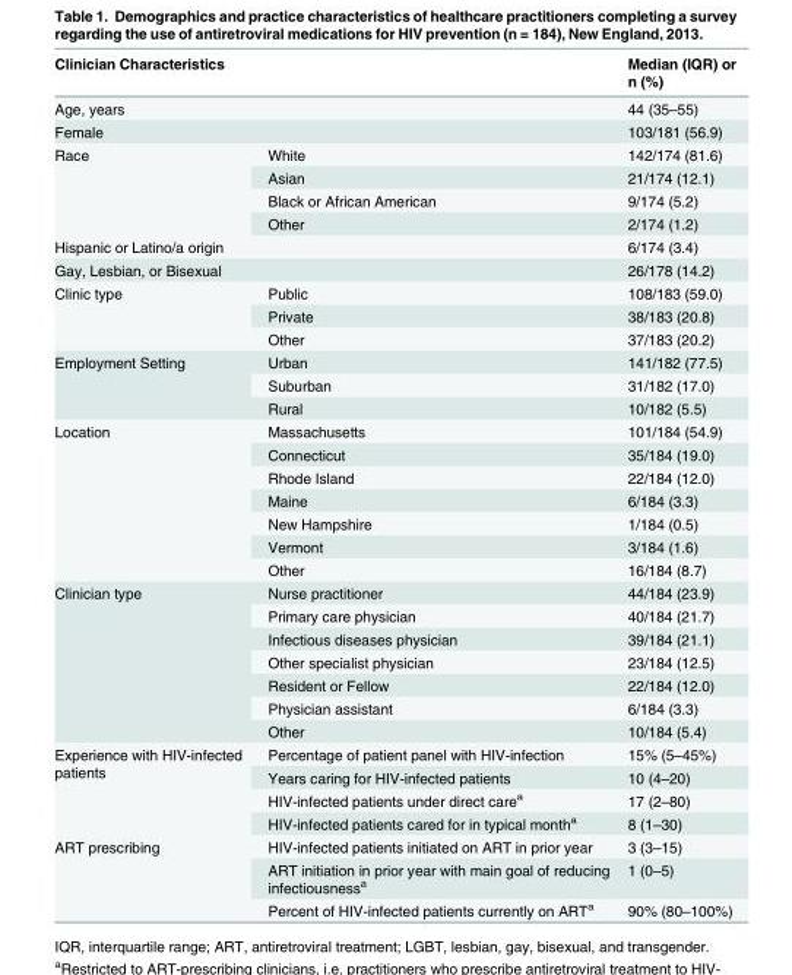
<table><thead><tr><td colspan="2">Clinician Characteristics</td><td rowspan="2">Median (IQR) or n (%) 44 (35–55)</td></tr><tr><td>Age, years</td><td></td></tr></thead><tbody><tr><td>Female</td><td></td><td>103/181 (56.9)</td></tr><tr><td rowspan="4">Race</td><td>White</td><td>142/174 (81.6)</td></tr><tr><td>Asian</td><td>21/174 (12.1)</td></tr><tr><td>Black or African American</td><td>9/174 (5.2)</td></tr><tr><td>Other</td><td>2/174 (1.2)</td></tr><tr><td>Hispanic or Latino/a origin</td><td></td><td>6/174 (3.4)</td></tr><tr><td>Gay, Lesbian, or Bisexual</td><td></td><td>26/178 (14.2)</td></tr><tr><td rowspan="3">Clinic type</td><td>Public</td><td>108/183 (59.0)</td></tr><tr><td>Private</td><td>38/183 (20.8)</td></tr><tr><td>Other</td><td>37/183 (20.2)</td></tr><tr><td rowspan="3">Employment Setting</td><td>Urban</td><td>141/182 (77.5)</td></tr><tr><td>Suburban</td><td>31/182 (17.0)</td></tr><tr><td>Rural</td><td>10/182 (5.5)</td></tr><tr><td rowspan="7">Location</td><td>Massachusetts</td><td>101/184 (54.9)</td></tr><tr><td>Connecticut</td><td>35/184 (19.0)</td></tr><tr><td>Rhode Island</td><td>22/184 (12.0)</td></tr><tr><td>Maine</td><td>6/184 (3.3)</td></tr><tr><td>New Hampshire</td><td>1/184 (0.5)</td></tr><tr><td>Vermont</td><td>3/184 (1.6)</td></tr><tr><td>Other</td><td>16/184 (8.7)</td></tr><tr><td rowspan="7">Clinician type</td><td>Nurse practitioner</td><td>44/184 (23.9)</td></tr><tr><td>Primary care physician</td><td>40/184 (21.7)</td></tr><tr><td>Infectious diseases physician</td><td>39/184 (21.1)</td></tr><tr><td>Other specialist physician</td><td>23/184 (12.5)</td></tr><tr><td>Resident or Fellow</td><td>22/184 (12.0)</td></tr><tr><td>Physician assistant</td><td>6/184 (3.3)</td></tr><tr><td>Other</td><td>10/184 (5.4)</td></tr><tr><td rowspan="4">Experience with HIV-infected patients</td><td>Percentage of patient panel with HIV-infection</td><td>15% (5–45%)</td></tr><tr><td>Years caring for HIV-infected patients</td><td>10 (4–20)</td></tr><tr><td>HIV-infected patients under direct care<sup>a</sup></td><td>17 (2–80)</td></tr><tr><td>HIV-infected patients cared for in typical month<sup>a</sup></td><td>8 (1–30)</td></tr><tr><td rowspan="3">ART prescribing</td><td>HIV-infected patients initiated on ART in prior year</td><td>3 (3–15)</td></tr><tr><td>ART initiation in prior year with main goal of reducing infectiousness<sup>a</sup></td><td>1 (0–5)</td></tr><tr><td>Percent of HIV-infected patients currently on ART<sup>a</sup></td><td>90% (80–100%)</td></tr></tbody></table>